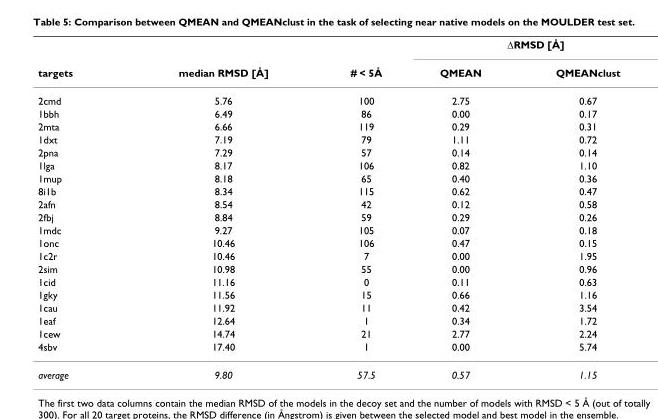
<table><thead><tr><td rowspan="2">targets</td><td rowspan="2">median RMSD [Å]</td><td rowspan="2"># &lt; 5Å</td><td colspan="2">ΔRMSD [Å]</td></tr><tr><td>QMEAN</td><td>QMEANclust</td></tr></thead><tbody><tr><td>2cmd</td><td>5.76</td><td>100</td><td>2.75</td><td>0.67</td></tr><tr><td>1bbh</td><td>6.49</td><td>86</td><td>0.00</td><td>0.17</td></tr><tr><td>2mta</td><td>6.66</td><td>119</td><td>0.29</td><td>0.31</td></tr><tr><td>1dxt</td><td>7.19</td><td>79</td><td>1.11</td><td>0.72</td></tr><tr><td>2pna</td><td>7.29</td><td>57</td><td>0.14</td><td>0.14</td></tr><tr><td>1lga</td><td>8.17</td><td>106</td><td>0.82</td><td>1.10</td></tr><tr><td>1mup</td><td>8.18</td><td>65</td><td>0.40</td><td>0.36</td></tr><tr><td>8i1b</td><td>8.34</td><td>115</td><td>0.62</td><td>0.47</td></tr><tr><td>2afn</td><td>8.54</td><td>42</td><td>0.12</td><td>0.58</td></tr><tr><td>2fbj</td><td>8.84</td><td>59</td><td>0.29</td><td>0.26</td></tr><tr><td>1mdc</td><td>9.27</td><td>105</td><td>0.07</td><td>0.18</td></tr><tr><td>1onc</td><td>10.46</td><td>106</td><td>0.47</td><td>0.15</td></tr><tr><td>1c2r</td><td>10.46</td><td>7</td><td>0.00</td><td>1.95</td></tr><tr><td>2sim</td><td>10.98</td><td>55</td><td>0.00</td><td>0.96</td></tr><tr><td>1cid</td><td>11.16</td><td>0</td><td>0.11</td><td>0.63</td></tr><tr><td>1gky</td><td>11.56</td><td>15</td><td>0.66</td><td>1.16</td></tr><tr><td>1cau</td><td>11.92</td><td>11</td><td>0.42</td><td>3.54</td></tr><tr><td>1eaf</td><td>12.64</td><td>1</td><td>0.34</td><td>1.72</td></tr><tr><td>1cew</td><td>14.74</td><td>21</td><td>2.77</td><td>2.24</td></tr><tr><td>4sbv</td><td>17.40</td><td>1</td><td>0.00</td><td>5.74</td></tr><tr><td>average</td><td>9.80</td><td>57.5</td><td>0.57</td><td>1.15</td></tr></tbody></table>